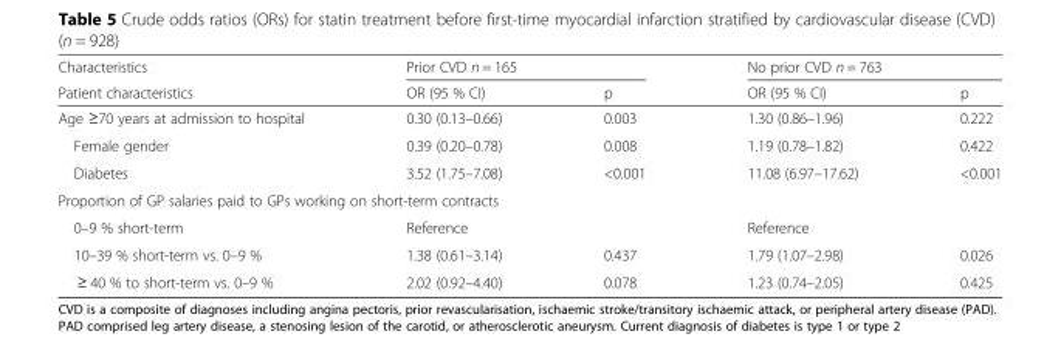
<table><thead><tr><td rowspan="2">Characteristics Patient characteristics</td><td colspan="2">Prior CVD n = 165</td><td colspan="2">No prior CVD n = 763</td></tr><tr><td>OR (95 % CI)</td><td>p</td><td>OR (95 % CI)</td><td>p</td></tr></thead><tbody><tr><td>Age ≥70 years at admission to hospital</td><td>0.30 (0.13–0.66)</td><td>0.003</td><td>1.30 (0.86–1.96)</td><td>0.222</td></tr><tr><td>Female gender</td><td>0.39 (0.20–0.78)</td><td>0.008</td><td>1.19 (0.78–1.82)</td><td>0.422</td></tr><tr><td>Diabetes</td><td>3.52 (1.75–7.08)</td><td>&lt;0.001</td><td>11.08 (6.97–17.62)</td><td>&lt;0.001</td></tr><tr><td colspan="5">Proportion of GP salaries paid to GPs working on short-term contracts</td></tr><tr><td>0–9 % short-term</td><td>Reference</td><td></td><td>Reference</td><td></td></tr><tr><td>10–39 % short-term vs. 0–9 %</td><td>1.38 (0.61–3.14)</td><td>0.437</td><td>1.79 (1.07–2.98)</td><td>0.026</td></tr><tr><td>≥ 40 % to short-term vs. 0–9 %</td><td>2.02 (0.92–4.40)</td><td>0.078</td><td>1.23 (0.74–2.05)</td><td>0.425</td></tr></tbody></table>